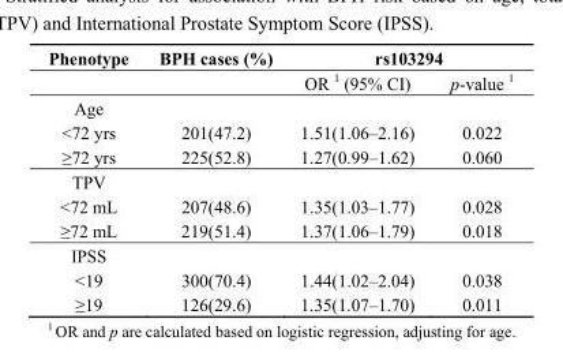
<table><thead><tr><td rowspan="2">Phenotype</td><td rowspan="2">BPH cases (%)</td><td colspan="2">rs103294</td></tr><tr><td>OR 1 (95% CI)</td><td>p-value 1</td></tr></thead><tbody><tr><td colspan="4">Age</td></tr><tr><td>&lt;72 yrs</td><td>201(47.2)</td><td>1.51(1.06–2.16)</td><td>0.022</td></tr><tr><td>≥72 yrs</td><td>225(52.8)</td><td>1.27(0.99–1.62)</td><td>0.060</td></tr><tr><td colspan="4">TPV</td></tr><tr><td>&lt;72 mL</td><td>207(48.6)</td><td>1.35(1.03–1.77)</td><td>0.028</td></tr><tr><td>≥72 mL</td><td>219(51.4)</td><td>1.37(1.06–1.79)</td><td>0.018</td></tr><tr><td colspan="4">IPSS</td></tr><tr><td>&lt;19</td><td>300(70.4)</td><td>1.44(1.02–2.04)</td><td>0.038</td></tr><tr><td>≥19</td><td>126(29.6)</td><td>1.35(1.07–1.70)</td><td>0.011</td></tr></tbody></table>